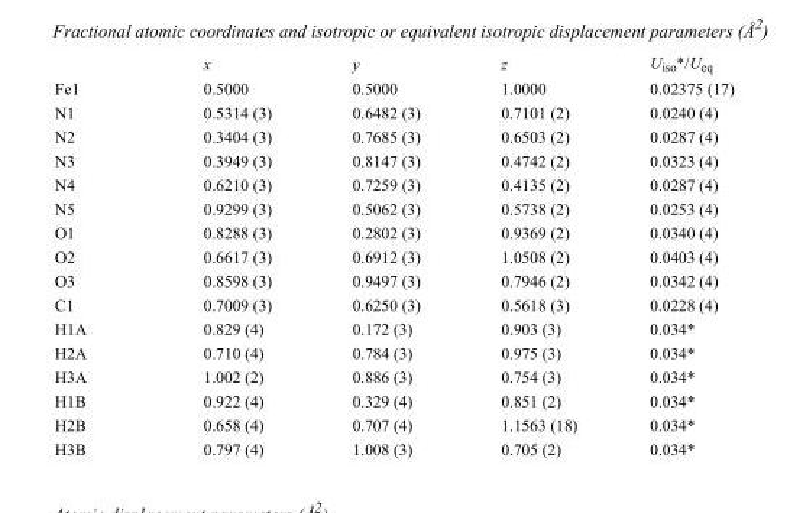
<table><thead><tr><td></td><td>x</td><td>y</td><td>z</td><td>U<sub>iso</sub>*/U<sub>eq</sub></td></tr></thead><tbody><tr><td>Fe1</td><td>0.5000</td><td>0.5000</td><td>1.0000</td><td>0.02375 (17)</td></tr><tr><td>N1</td><td>0.5314 (3)</td><td>0.6482 (3)</td><td>0.7101 (2)</td><td>0.0240 (4)</td></tr><tr><td>N2</td><td>0.3404 (3)</td><td>0.7685 (3)</td><td>0.6503 (2)</td><td>0.0287 (4)</td></tr><tr><td>N3</td><td>0.3949 (3)</td><td>0.8147 (3)</td><td>0.4742 (2)</td><td>0.0323 (4)</td></tr><tr><td>N4</td><td>0.6210 (3)</td><td>0.7259 (3)</td><td>0.4135 (2)</td><td>0.0287 (4)</td></tr><tr><td>N5</td><td>0.9299 (3)</td><td>0.5062 (3)</td><td>0.5738 (2)</td><td>0.0253 (4)</td></tr><tr><td>O1</td><td>0.8288 (3)</td><td>0.2802 (3)</td><td>0.9369 (2)</td><td>0.0340 (4)</td></tr><tr><td>O2</td><td>0.6617 (3)</td><td>0.6912 (3)</td><td>1.0508 (2)</td><td>0.0403 (4)</td></tr><tr><td>O3</td><td>0.8598 (3)</td><td>0.9497 (3)</td><td>0.7946 (2)</td><td>0.0342 (4)</td></tr><tr><td>C1</td><td>0.7009 (3)</td><td>0.6250 (3)</td><td>0.5618 (3)</td><td>0.0228 (4)</td></tr><tr><td>H1A</td><td>0.829 (4)</td><td>0.172 (3)</td><td>0.903 (3)</td><td>0.034*</td></tr><tr><td>H2A</td><td>0.710 (4)</td><td>0.784 (3)</td><td>0.975 (3)</td><td>0.034*</td></tr><tr><td>H3A</td><td>1.002 (2)</td><td>0.886 (3)</td><td>0.754 (3)</td><td>0.034*</td></tr><tr><td>H1B</td><td>0.922 (4)</td><td>0.329 (4)</td><td>0.851 (2)</td><td>0.034*</td></tr><tr><td>H2B</td><td>0.658 (4)</td><td>0.707 (4)</td><td>1.1563 (18)</td><td>0.034*</td></tr><tr><td>H3B</td><td>0.797 (4)</td><td>1.008 (3)</td><td>0.705 (2)</td><td>0.034*</td></tr></tbody></table>